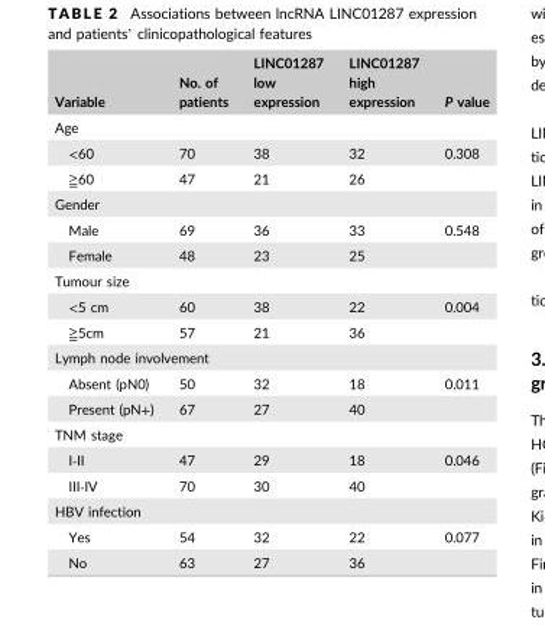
<table><thead><tr><td>Variable</td><td>No. of patients</td><td>LINC01287 low expression</td><td>LINC01287 high expression</td><td>P value</td></tr></thead><tbody><tr><td colspan="5">Age</td></tr><tr><td>&lt;60</td><td>70</td><td>38</td><td>32</td><td>0.308</td></tr><tr><td>≧60</td><td>47</td><td>21</td><td>26</td><td></td></tr><tr><td colspan="5">Gender</td></tr><tr><td>Male</td><td>69</td><td>36</td><td>33</td><td>0.548</td></tr><tr><td>Female</td><td>48</td><td>23</td><td>25</td><td></td></tr><tr><td colspan="5">Tumour size</td></tr><tr><td>&lt;5 cm</td><td>60</td><td>38</td><td>22</td><td>0.004</td></tr><tr><td>≧5cm</td><td>57</td><td>21</td><td>36</td><td></td></tr><tr><td colspan="5">Lymph node involvement</td></tr><tr><td>Absent (pN0)</td><td>50</td><td>32</td><td>18</td><td>0.011</td></tr><tr><td>Present (pN+)</td><td>67</td><td>27</td><td>40</td><td></td></tr><tr><td colspan="5">TNM stage</td></tr><tr><td>I‐II</td><td>47</td><td>29</td><td>18</td><td>0.046</td></tr><tr><td>III‐IV</td><td>70</td><td>30</td><td>40</td><td></td></tr><tr><td colspan="5">HBV infection</td></tr><tr><td>Yes</td><td>54</td><td>32</td><td>22</td><td>0.077</td></tr><tr><td>No</td><td>63</td><td>27</td><td>36</td><td></td></tr></tbody></table>